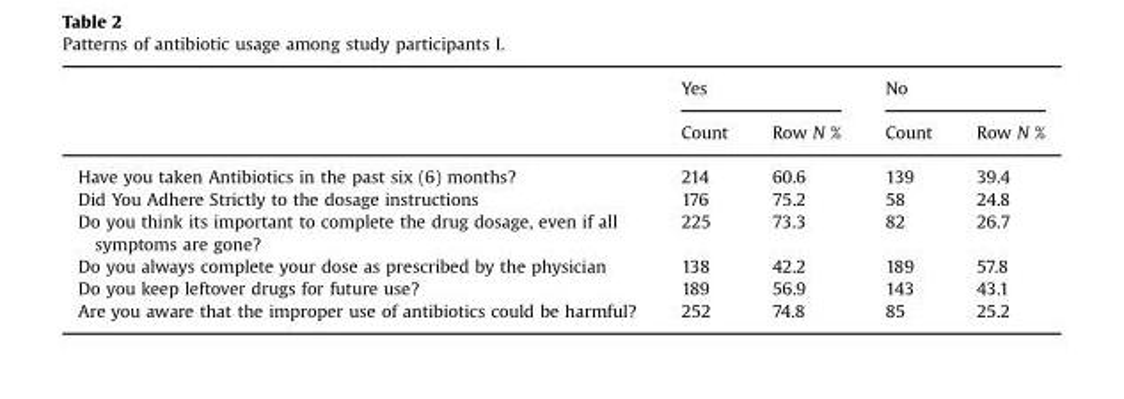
<table><thead><tr><td rowspan="2"></td><td colspan="2">Yes</td><td colspan="2">No</td></tr><tr><td>Count</td><td>Row N %</td><td>Count</td><td>Row N %</td></tr></thead><tbody><tr><td>Have you taken Antibiotics in the past six (6) months?</td><td>214</td><td>60.6</td><td>139</td><td>39.4</td></tr><tr><td>Did You Adhere Strictly to the dosage instructions</td><td>176</td><td>75.2</td><td>58</td><td>24.8</td></tr><tr><td>Do you think its important to complete the drug dosage, even if all symptoms are gone?</td><td>225</td><td>73.3</td><td>82</td><td>26.7</td></tr><tr><td>Do you always complete your dose as prescribed by the physician</td><td>138</td><td>42.2</td><td>189</td><td>57.8</td></tr><tr><td>Do you keep leftover drugs for future use?</td><td>189</td><td>56.9</td><td>143</td><td>43.1</td></tr><tr><td>Are you aware that the improper use of antibiotics could be harmful?</td><td>252</td><td>74.8</td><td>85</td><td>25.2</td></tr></tbody></table>